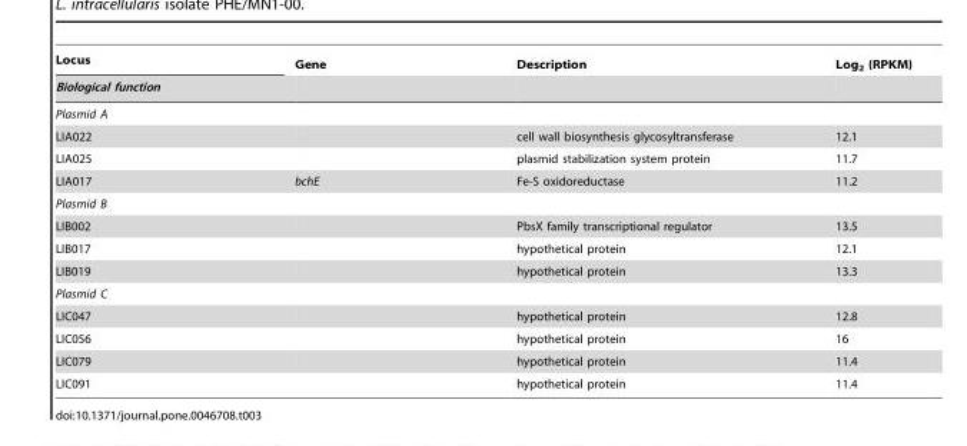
<table><thead><tr><td rowspan="2">Locus Biological function</td><td rowspan="2">Gene</td><td rowspan="2">Description</td><td rowspan="2">Log<sub>2</sub> (RPKM)</td></tr><tr></tr></thead><tbody><tr><td colspan="4">Plasmid A</td></tr><tr><td>LIA022</td><td></td><td>cell wall biosynthesis glycosyltransferase</td><td>12.1</td></tr><tr><td>LIA025</td><td></td><td>plasmid stabilization system protein</td><td>11.7</td></tr><tr><td>LIA017</td><td>bchE</td><td>Fe-S oxidoreductase</td><td>11.2</td></tr><tr><td colspan="4">Plasmid B</td></tr><tr><td>LIB002</td><td></td><td>PbsX family transcriptional regulator</td><td>13.5</td></tr><tr><td>LIB017</td><td></td><td>hypothetical protein</td><td>12.1</td></tr><tr><td>LIB019</td><td></td><td>hypothetical protein</td><td>13.3</td></tr><tr><td colspan="4">Plasmid C</td></tr><tr><td>LIC047</td><td></td><td>hypothetical protein</td><td>12.8</td></tr><tr><td>LIC056</td><td></td><td>hypothetical protein</td><td>16</td></tr><tr><td>LIC079</td><td></td><td>hypothetical protein</td><td>11.4</td></tr><tr><td>LIC091</td><td></td><td>hypothetical protein</td><td>11.4</td></tr></tbody></table>